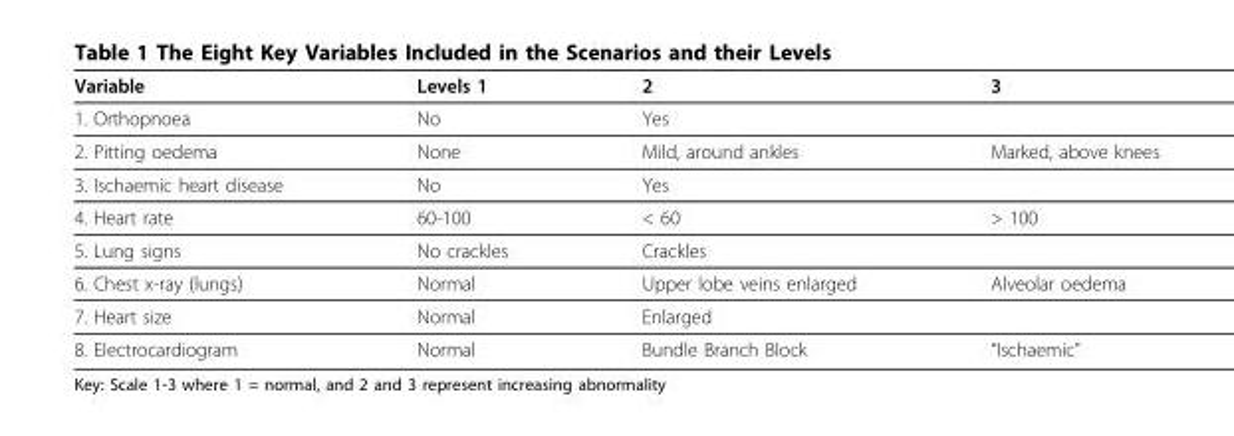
<table><thead><tr><td>Variable</td><td>Levels 1</td><td>2</td><td>3</td></tr></thead><tbody><tr><td>1. Orthopnoea</td><td>No</td><td>Yes</td><td></td></tr><tr><td>2. Pitting oedema</td><td>None</td><td>Mild, around ankles</td><td>Marked, above knees</td></tr><tr><td>3. Ischaemic heart disease</td><td>No</td><td>Yes</td><td></td></tr><tr><td>4. Heart rate</td><td>60-100</td><td>&lt; 60</td><td>&gt; 100</td></tr><tr><td>5. Lung signs</td><td>No crackles</td><td>Crackles</td><td></td></tr><tr><td>6. Chest x-ray (lungs)</td><td>Normal</td><td>Upper lobe veins enlarged</td><td>Alveolar oedema</td></tr><tr><td>7. Heart size</td><td>Normal</td><td>Enlarged</td><td></td></tr><tr><td>8. Electrocardiogram</td><td>Normal</td><td>Bundle Branch Block</td><td>“Ischaemic”</td></tr></tbody></table>